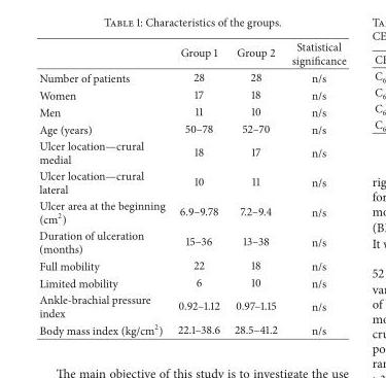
<table><thead><tr><td></td><td>Group 1</td><td>Group 2</td><td>Statistical significance</td></tr></thead><tbody><tr><td>Number of patients</td><td>28</td><td>28</td><td>n/s</td></tr><tr><td>Women</td><td>17</td><td>18</td><td>n/s</td></tr><tr><td>Men</td><td>11</td><td>10</td><td>n/s</td></tr><tr><td>Age (years)</td><td>50–78</td><td>52–70</td><td>n/s</td></tr><tr><td>Ulcer location—crural medial</td><td>18</td><td>17</td><td>n/s</td></tr><tr><td>Ulcer location—crural lateral</td><td>10</td><td>11</td><td>n/s</td></tr><tr><td>Ulcer area at the beginning (cm<sup>2</sup>)</td><td>6.9–9.78</td><td>7.2–9.4</td><td>n/s</td></tr><tr><td>Duration of ulceration (months)</td><td>15–36</td><td>13–38</td><td>n/s</td></tr><tr><td>Full mobility</td><td>22</td><td>18</td><td>n/s</td></tr><tr><td>Limited mobility</td><td>6</td><td>10</td><td>n/s</td></tr><tr><td>Ankle-brachial pressure index</td><td>0.92–1.12</td><td>0.97–1.15</td><td>n/s</td></tr><tr><td>Body mass index (kg/cm<sup>2</sup>)</td><td>22.1–38.6</td><td>28.5–41.2</td><td>n/s</td></tr></tbody></table>